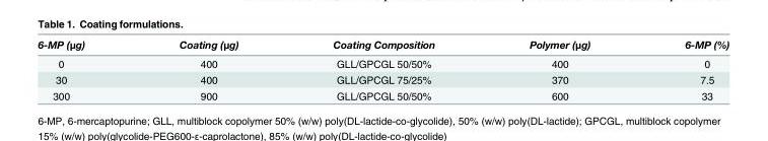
<table><thead><tr><td>6-MP (μg)</td><td>Coating (μg)</td><td>Coating Composition</td><td>Polymer (μg)</td><td>6-MP (%)</td></tr></thead><tbody><tr><td>0</td><td>400</td><td>GLL/GPCGL 50/50%</td><td>400</td><td>0</td></tr><tr><td>30</td><td>400</td><td>GLL/GPCGL 75/25%</td><td>370</td><td>7.5</td></tr><tr><td>300</td><td>900</td><td>GLL/GPCGL 50/50%</td><td>600</td><td>33</td></tr></tbody></table>